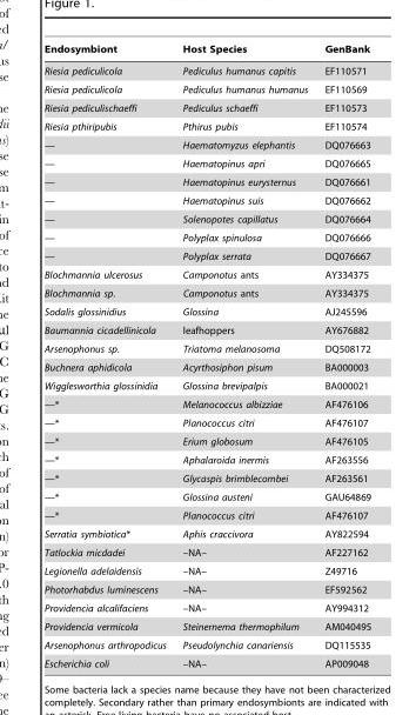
<table><thead><tr><td>Endosymbiont</td><td>Host Species</td><td>GenBank</td></tr></thead><tbody><tr><td>Riesia pediculicola</td><td>Pediculus humanus capitis</td><td>EF110571</td></tr><tr><td>Riesia pediculicola</td><td>Pediculus humanus humanus</td><td>EF110569</td></tr><tr><td>Riesia pediculischaeffi</td><td>Pediculus schaeffi</td><td>EF110573</td></tr><tr><td>Riesia pthiripubis</td><td>Pthirus pubis</td><td>EF110574</td></tr><tr><td>—</td><td>Haematomyzus elephantis</td><td>DQ076663</td></tr><tr><td>—</td><td>Haematopinus apri</td><td>DQ076665</td></tr><tr><td>—</td><td>Haematopinus eurysternus</td><td>DQ076661</td></tr><tr><td>—</td><td>Haematopinus suis</td><td>DQ076662</td></tr><tr><td>—</td><td>Solenopotes capillatus</td><td>DQ076664</td></tr><tr><td>—</td><td>Polyplax spinulosa</td><td>DQ076666</td></tr><tr><td>—</td><td>Polyplax serrata</td><td>DQ076667</td></tr><tr><td>Blochmannia ulcerosus</td><td>Camponotus ants</td><td>AY334375</td></tr><tr><td>Blochmannia sp.</td><td>Camponotus ants</td><td>AY334375</td></tr><tr><td>Sodalis glossinidius</td><td>Glossina</td><td>AJ245596</td></tr><tr><td>Baumannia cicadellinicola</td><td>leafhoppers</td><td>AY676882</td></tr><tr><td>Arsenophonus sp.</td><td>Triatoma melanosoma</td><td>DQ508172</td></tr><tr><td>Buchnera aphidicola</td><td>Acyrthosiphon pisum</td><td>BA000003</td></tr><tr><td>Wigglesworthia glossinidia</td><td>Glossina brevipalpis</td><td>BA000021</td></tr><tr><td>—*</td><td>Melanococcus albizziae</td><td>AF476106</td></tr><tr><td>—*</td><td>Planococcus citri</td><td>AF476107</td></tr><tr><td>—*</td><td>Erium globosum</td><td>AF476105</td></tr><tr><td>—*</td><td>Aphalaroida inermis</td><td>AF263556</td></tr><tr><td>—*</td><td>Glycaspis brimblecombei</td><td>AF263561</td></tr><tr><td>—*</td><td>Glossina austeni</td><td>GAU64869</td></tr><tr><td>—*</td><td>Planococcus citri</td><td>AF476107</td></tr><tr><td>Serratia symbiotica*</td><td>Aphis craccivora</td><td>AY822594</td></tr><tr><td>Tatlockia micdadei</td><td>–NA–</td><td>AF227162</td></tr><tr><td>Legionella adelaidensis</td><td>–NA–</td><td>Z49716</td></tr><tr><td>Photorhabdus luminescens</td><td>–NA–</td><td>EF592562</td></tr><tr><td>Providencia alcalifaciens</td><td>–NA–</td><td>AY994312</td></tr><tr><td>Providencia vermicola</td><td>Steinernema thermophilum</td><td>AM040495</td></tr><tr><td>Arsenophonus arthropodicus</td><td>Pseudolynchia canariensis</td><td>DQ115535</td></tr><tr><td>Escherichia coli</td><td>–NA–</td><td>AP009048</td></tr></tbody></table>